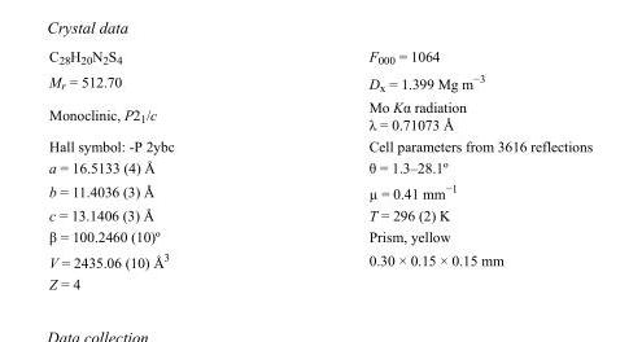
<table><tbody><tr><td>C<sub>28</sub>H<sub>20</sub>N<sub>2</sub>S<sub>4</sub></td><td>F<sub>000</sub> = 1064</td></tr><tr><td>M<sub>r</sub> = 512.70</td><td>D<sub>x</sub> = 1.399 Mg m<sup>−3</sup></td></tr><tr><td>Monoclinic, P2<sub>1</sub>/c</td><td>Mo Kα radiation λ = 0.71073 Å</td></tr><tr><td>Hall symbol: -P 2ybc</td><td>Cell parameters from 3616 reflections</td></tr><tr><td>a = 16.5133 (4) Å</td><td>θ = 1.3–28.1º</td></tr><tr><td>b = 11.4036 (3) Å</td><td>µ = 0.41 mm<sup>−1</sup></td></tr><tr><td>c = 13.1406 (3) Å</td><td>T = 296 (2) K</td></tr><tr><td>β = 100.2460 (10)º</td><td>Prism, yellow</td></tr><tr><td>V = 2435.06 (10) Å<sup>3</sup></td><td>0.30 × 0.15 × 0.15 mm</td></tr><tr><td>Z = 4</td><td></td></tr></tbody></table>